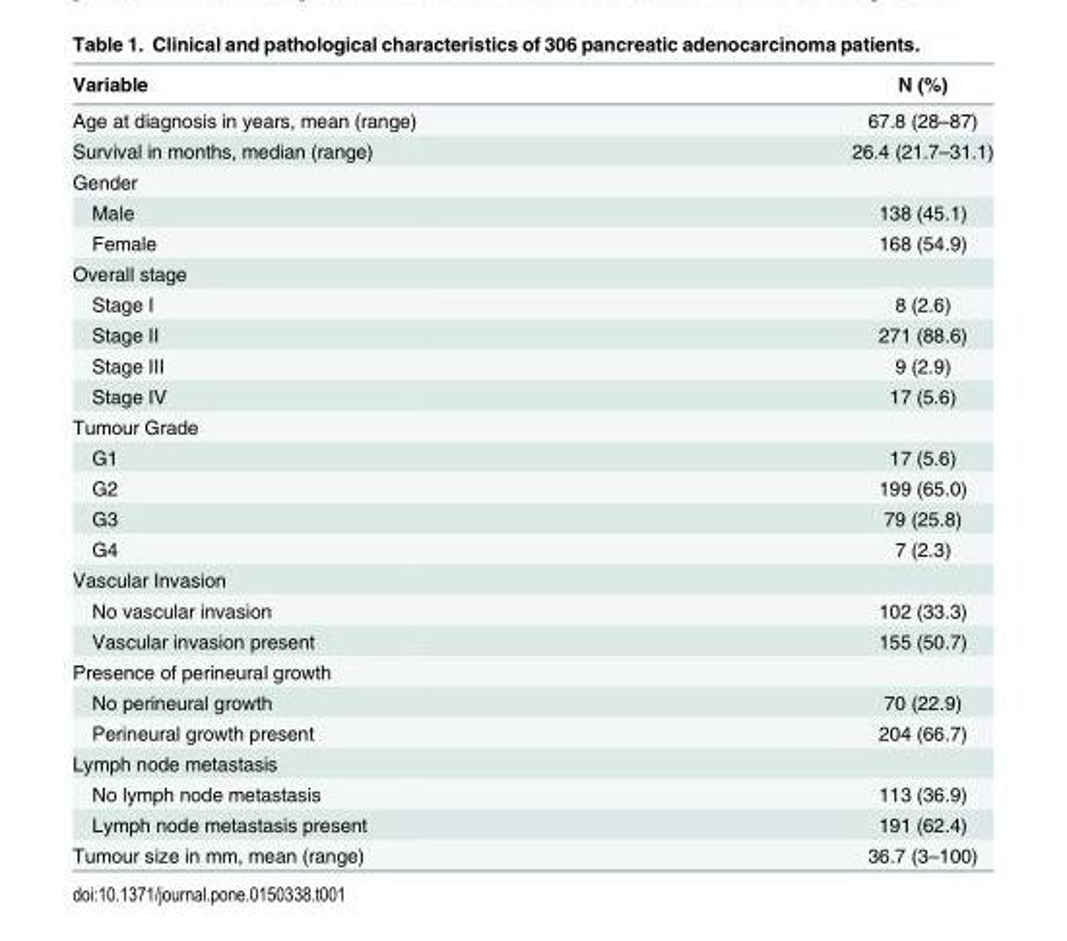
<table><thead><tr><td>Variable</td><td>N (%)</td></tr></thead><tbody><tr><td>Age at diagnosis in years, mean (range)</td><td>67.8 (28–87)</td></tr><tr><td>Survival in months, median (range)</td><td>26.4 (21.7–31.1)</td></tr><tr><td colspan="2">Gender</td></tr><tr><td>Male</td><td>138 (45.1)</td></tr><tr><td>Female</td><td>168 (54.9)</td></tr><tr><td colspan="2">Overall stage</td></tr><tr><td>Stage I</td><td>8 (2.6)</td></tr><tr><td>Stage II</td><td>271 (88.6)</td></tr><tr><td>Stage III</td><td>9 (2.9)</td></tr><tr><td>Stage IV</td><td>17 (5.6)</td></tr><tr><td colspan="2">Tumour Grade</td></tr><tr><td>G1</td><td>17 (5.6)</td></tr><tr><td>G2</td><td>199 (65.0)</td></tr><tr><td>G3</td><td>79 (25.8)</td></tr><tr><td>G4</td><td>7 (2.3)</td></tr><tr><td colspan="2">Vascular Invasion</td></tr><tr><td>No vascular invasion</td><td>102 (33.3)</td></tr><tr><td>Vascular invasion present</td><td>155 (50.7)</td></tr><tr><td colspan="2">Presence of perineural growth</td></tr><tr><td>No perineural growth</td><td>70 (22.9)</td></tr><tr><td>Perineural growth present</td><td>204 (66.7)</td></tr><tr><td colspan="2">Lymph node metastasis</td></tr><tr><td>No lymph node metastasis</td><td>113 (36.9)</td></tr><tr><td>Lymph node metastasis present</td><td>191 (62.4)</td></tr><tr><td>Tumour size in mm, mean (range)</td><td>36.7 (3–100)</td></tr></tbody></table>